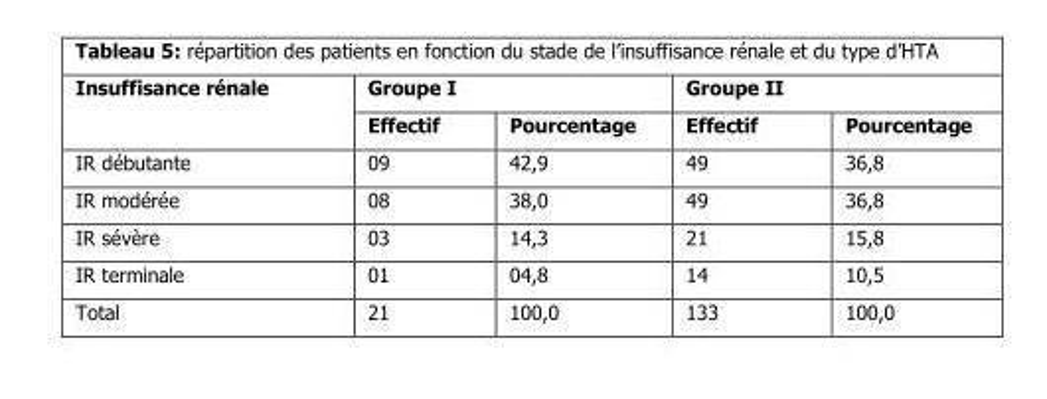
<table><thead><tr><td rowspan="2">Insuffisance rénale</td><td colspan="2">Groupe I</td><td colspan="2">Groupe II</td></tr><tr><td>Effectif</td><td>Pourcentage</td><td>Effectif</td><td>Pourcentage</td></tr></thead><tbody><tr><td>IR débutante</td><td>09</td><td>42,9</td><td>49</td><td>36,8</td></tr><tr><td>IR modérée</td><td>08</td><td>38,0</td><td>49</td><td>36,8</td></tr><tr><td>IR sévère</td><td>03</td><td>14,3</td><td>21</td><td>15,8</td></tr><tr><td>IR terminale</td><td>01</td><td>04,8</td><td>14</td><td>10,5</td></tr><tr><td>Total</td><td>21</td><td>100,0</td><td>133</td><td>100,0</td></tr></tbody></table>